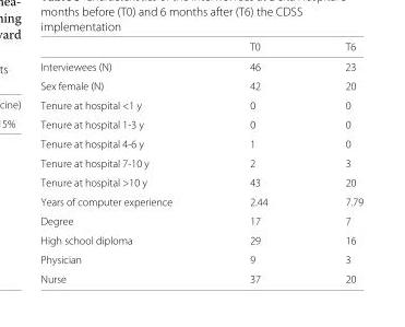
<table><thead><tr><td></td><td>T0</td><td>T6</td></tr></thead><tbody><tr><td>Interviewees (N)</td><td>46</td><td>23</td></tr><tr><td>Sex female (N)</td><td>42</td><td>20</td></tr><tr><td>Tenure at hospital &lt;1 y</td><td>0</td><td>0</td></tr><tr><td>Tenure at hospital 1-3 y</td><td>0</td><td>0</td></tr><tr><td>Tenure at hospital 4-6 y</td><td>1</td><td>0</td></tr><tr><td>Tenure at hospital 7-10 y</td><td>2</td><td>3</td></tr><tr><td>Tenure at hospital &gt;10 y</td><td>43</td><td>20</td></tr><tr><td>Years of computer experience</td><td>2.44</td><td>7.79</td></tr><tr><td>Degree</td><td>17</td><td>7</td></tr><tr><td>High school diploma</td><td>29</td><td>16</td></tr><tr><td>Physician</td><td>9</td><td>3</td></tr><tr><td>Nurse</td><td>37</td><td>20</td></tr></tbody></table>